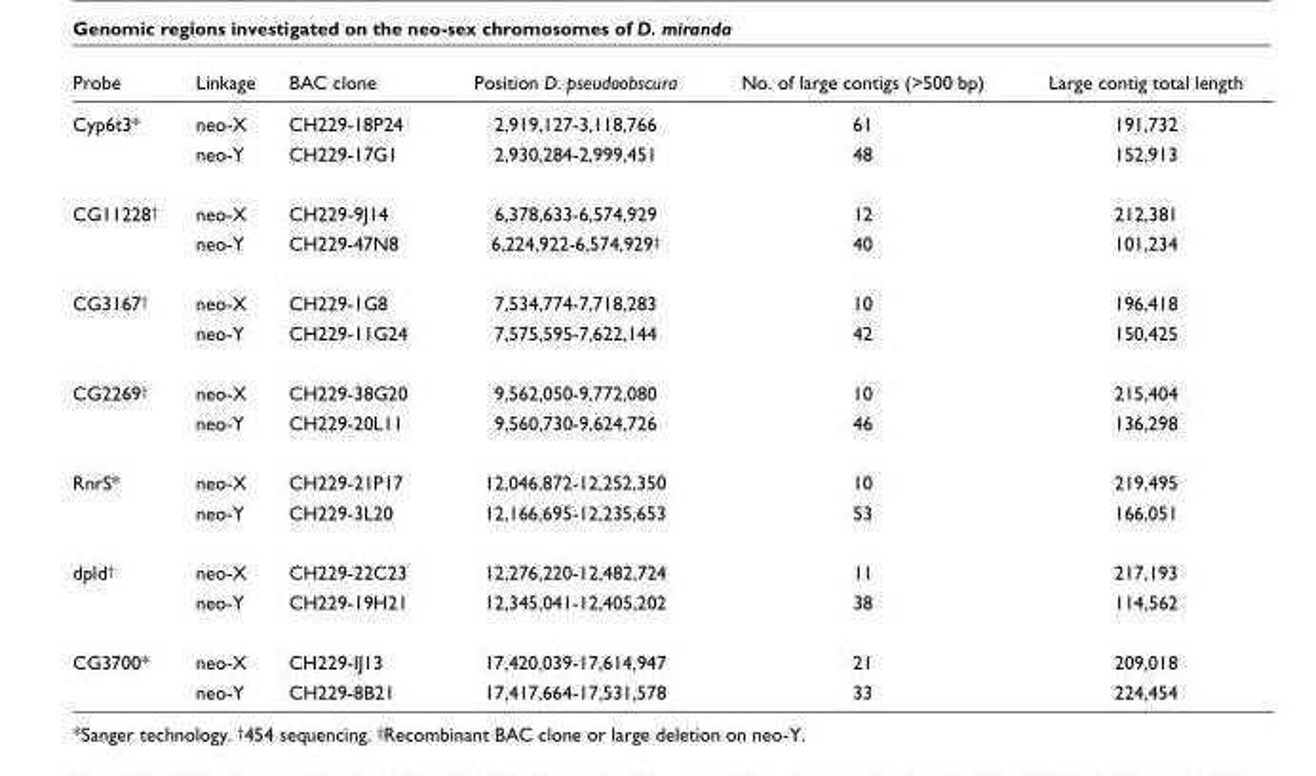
<table><thead><tr><td>Probe</td><td>Linkage</td><td>BAC clone</td><td>Position D. pseudoobscura</td><td>No. of large contigs (&gt;500 bp)</td><td>Large contig total length</td></tr></thead><tbody><tr><td rowspan="2">Cyp6t3*</td><td>neo-X</td><td>CH229-18P24</td><td>2,919,127-3,118,766</td><td>61</td><td>191,732</td></tr><tr><td>neo-Y</td><td>CH229-17G1</td><td>2,930,284-2,999,451</td><td>48</td><td>152,913</td></tr><tr><td rowspan="2">CG11228<sup>†</sup></td><td>neo-X</td><td>CH229-9J14</td><td>6,378,633-6,574,929</td><td>12</td><td>212,381</td></tr><tr><td>neo-Y</td><td>CH229-47N8</td><td>6,224,922-6,574,929<sup>‡</sup></td><td>40</td><td>101,234</td></tr><tr><td rowspan="2">CG3167<sup>†</sup></td><td>neo-X</td><td>CH229-1G8</td><td>7,534,774-7,718,283</td><td>10</td><td>196,418</td></tr><tr><td>neo-Y</td><td>CH229-11G24</td><td>7,575,595-7,622,144</td><td>42</td><td>150,425</td></tr><tr><td rowspan="2">CG2269<sup>†</sup></td><td>neo-X</td><td>CH229-38G20</td><td>9,562,050-9,772,080</td><td>10</td><td>215,404</td></tr><tr><td>neo-Y</td><td>CH229-20L11</td><td>9,560,730-9,624,726</td><td>46</td><td>136,298</td></tr><tr><td rowspan="2">RnrS*</td><td>neo-X</td><td>CH229-21P17</td><td>12,046,872-12,252,350</td><td>10</td><td>219,495</td></tr><tr><td>neo-Y</td><td>CH229-3L20</td><td>12,166,695-12,235,653</td><td>53</td><td>166,051</td></tr><tr><td rowspan="2">dpld<sup>†</sup></td><td>neo-X</td><td>CH229-22C23</td><td>12,276,220-12,482,724</td><td>11</td><td>217,193</td></tr><tr><td>neo-Y</td><td>CH229-19H21</td><td>12,345,041-12,405,202</td><td>38</td><td>114,562</td></tr><tr><td rowspan="2">CG3700*</td><td>neo-X</td><td>CH229-IJ13</td><td>17,420,039-17,614,947</td><td>21</td><td>209,018</td></tr><tr><td>neo-Y</td><td>CH229-8B21</td><td>17,417,664-17,531,578</td><td>33</td><td>224,454</td></tr></tbody></table>